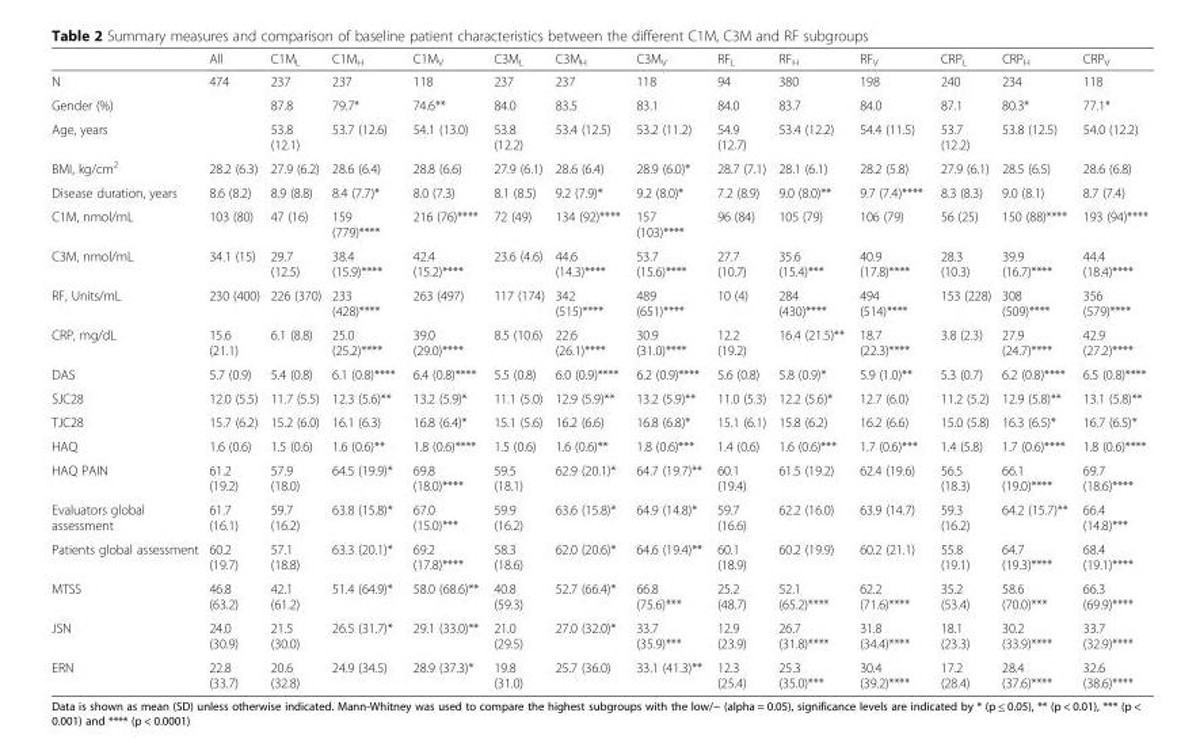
<table><thead><tr><td></td><td>All</td><td>C1M<sub>L</sub></td><td>C1M<sub>H</sub></td><td>C1M<sub>V</sub></td><td>C3M<sub>L</sub></td><td>C3M<sub>H</sub></td><td>C3M<sub>V</sub></td><td>RF<sub>L</sub></td><td>RF<sub>H</sub></td><td>RF<sub>V</sub></td><td>CRP<sub>L</sub></td><td>CRP<sub>H</sub></td><td>CRP<sub>V</sub></td></tr></thead><tbody><tr><td>N</td><td>474</td><td>237</td><td>237</td><td>118</td><td>237</td><td>237</td><td>118</td><td>94</td><td>380</td><td>198</td><td>240</td><td>234</td><td>118</td></tr><tr><td>Gender (%)</td><td></td><td>87.8</td><td>79.7*</td><td>74.6**</td><td>84.0</td><td>83.5</td><td>83.1</td><td>84.0</td><td>83.7</td><td>84.0</td><td>87.1</td><td>80.3*</td><td>77.1*</td></tr><tr><td>Age, years</td><td></td><td>53.8 (12.1)</td><td>53.7 (12.6)</td><td>54.1 (13.0)</td><td>53.8 (12.2)</td><td>53.4 (12.5)</td><td>53.2 (11.2)</td><td>54.9 (12.7)</td><td>53.4 (12.2)</td><td>54.4 (11.5)</td><td>53.7 (12.2)</td><td>53.8 (12.5)</td><td>54.0 (12.2)</td></tr><tr><td>BMI, kg/cm<sup>2</sup></td><td>28.2 (6.3)</td><td>27.9 (6.2)</td><td>28.6 (6.4)</td><td>28.8 (6.6)</td><td>27.9 (6.1)</td><td>28.6 (6.4)</td><td>28.9 (6.0)*</td><td>28.7 (7.1)</td><td>28.1 (6.1)</td><td>28.2 (5.8)</td><td>27.9 (6.1)</td><td>28.5 (6.5)</td><td>28.6 (6.8)</td></tr><tr><td>Disease duration, years</td><td>8.6 (8.2)</td><td>8.9 (8.8)</td><td>8.4 (7.7)*</td><td>8.0 (7.3)</td><td>8.1 (8.5)</td><td>9.2 (7.9)*</td><td>9.2 (8.0)*</td><td>7.2 (8.9)</td><td>9.0 (8.0)**</td><td>9.7 (7.4)****</td><td>8.3 (8.3)</td><td>9.0 (8.1)</td><td>8.7 (7.4)</td></tr><tr><td>C1M, nmol/mL</td><td>103 (80)</td><td>47 (16)</td><td>159 (779)****</td><td>216 (76)****</td><td>72 (49)</td><td>134 (92)****</td><td>157 (103)****</td><td>96 (84)</td><td>105 (79)</td><td>106 (79)</td><td>56 (25)</td><td>150 (88)****</td><td>193 (94)****</td></tr><tr><td>C3M, nmol/mL</td><td>34.1 (15)</td><td>29.7 (12.5)</td><td>38.4 (15.9)****</td><td>42.4 (15.2)****</td><td>23.6 (4.6)</td><td>44.6 (14.3)****</td><td>53.7 (15.6)****</td><td>27.7 (10.7)</td><td>35.6 (15.4)***</td><td>40.9 (17.8)****</td><td>28.3 (10.3)</td><td>39.9 (16.7)****</td><td>44.4 (18.4)****</td></tr><tr><td>RF, Units/mL</td><td>230 (400)</td><td>226 (370)</td><td>233 (428)****</td><td>263 (497)</td><td>117 (174)</td><td>342 (515)****</td><td>489 (651)****</td><td>10 (4)</td><td>284 (430)****</td><td>494 (514)****</td><td>153 (228)</td><td>308 (509)****</td><td>356 (579)****</td></tr><tr><td>CRP, mg/dL</td><td>15.6 (21.1)</td><td>6.1 (8.8)</td><td>25.0 (25.2)****</td><td>39.0 (29.0)****</td><td>8.5 (10.6)</td><td>22.6 (26.1)****</td><td>30.9 (31.0)****</td><td>12.2 (19.2)</td><td>16.4 (21.5)**</td><td>18.7 (22.3)****</td><td>3.8 (2.3)</td><td>27.9 (24.7)****</td><td>42.9 (27.2)****</td></tr><tr><td>DAS</td><td>5.7 (0.9)</td><td>5.4 (0.8)</td><td>6.1 (0.8)****</td><td>6.4 (0.8)****</td><td>5.5 (0.8)</td><td>6.0 (0.9)****</td><td>6.2 (0.9)****</td><td>5.6 (0.8)</td><td>5.8 (0.9)*</td><td>5.9 (1.0)**</td><td>5.3 (0.7)</td><td>6.2 (0.8)****</td><td>6.5 (0.8)****</td></tr><tr><td>SJC28</td><td>12.0 (5.5)</td><td>11.7 (5.5)</td><td>12.3 (5.6)**</td><td>13.2 (5.9)*</td><td>11.1 (5.0)</td><td>12.9 (5.9)**</td><td>13.2 (5.9)**</td><td>11.0 (5.3)</td><td>12.2 (5.6)*</td><td>12.7 (6.0)</td><td>11.2 (5.2)</td><td>12.9 (5.8)**</td><td>13.1 (5.8)**</td></tr><tr><td>TJC28</td><td>15.7 (6.2)</td><td>15.2 (6.0)</td><td>16.1 (6.3)</td><td>16.8 (6.4)*</td><td>15.1 (5.6)</td><td>16.2 (6.6)</td><td>16.8 (6.8)*</td><td>15.1 (6.1)</td><td>15.8 (6.2)</td><td>16.2 (6.6)</td><td>15.0 (5.8)</td><td>16.3 (6.5)*</td><td>16.7 (6.5)*</td></tr><tr><td>HAQ</td><td>1.6 (0.6)</td><td>1.5 (0.6)</td><td>1.6 (0.6)**</td><td>1.8 (0.6)****</td><td>1.5 (0.6)</td><td>1.6 (0.6)**</td><td>1.8 (0.6)***</td><td>1.4 (0.6)</td><td>1.6 (0.6)***</td><td>1.7 (0.6)***</td><td>1.4 (5.8)</td><td>1.7 (0.6)****</td><td>1.8 (0.6)****</td></tr><tr><td>HAQ PAIN</td><td>61.2 (19.2)</td><td>57.9 (18.0)</td><td>64.5 (19.9)*</td><td>69.8 (18.0)****</td><td>59.5 (18.1)</td><td>62.9 (20.1)*</td><td>64.7 (19.7)**</td><td>60.1 (19.4)</td><td>61.5 (19.2)</td><td>62.4 (19.6)</td><td>56.5 (18.3)</td><td>66.1 (19.0)****</td><td>69.7 (18.6)****</td></tr><tr><td>Evaluators global assessment</td><td>61.7 (16.1)</td><td>59.7 (16.2)</td><td>63.8 (15.8)*</td><td>67.0 (15.0)***</td><td>59.9 (16.2)</td><td>63.6 (15.8)*</td><td>64.9 (14.8)*</td><td>59.7 (16.6)</td><td>62.2 (16.0)</td><td>63.9 (14.7)</td><td>59.3 (16.2)</td><td>64.2 (15.7)**</td><td>66.4 (14.8)***</td></tr><tr><td>Patients global assessment</td><td>60.2 (19.7)</td><td>57.1 (18.8)</td><td>63.3 (20.1)*</td><td>69.2 (17.8)****</td><td>58.3 (18.6)</td><td>62.0 (20.6)*</td><td>64.6 (19.4)**</td><td>60.1 (18.9)</td><td>60.2 (19.9)</td><td>60.2 (21.1)</td><td>55.8 (19.1)</td><td>64.7 (19.3)****</td><td>68.4 (19.1)****</td></tr><tr><td>MTSS</td><td>46.8 (63.2)</td><td>42.1 (61.2)</td><td>51.4 (64.9)*</td><td>58.0 (68.6)**</td><td>40.8 (59.3)</td><td>52.7 (66.4)*</td><td>66.8 (75.6)***</td><td>25.2 (48.7)</td><td>52.1 (65.2)****</td><td>62.2 (71.6)****</td><td>35.2 (53.4)</td><td>58.6 (70.0)***</td><td>66.3 (69.9)****</td></tr><tr><td>JSN</td><td>24.0 (30.9)</td><td>21.5 (30.0)</td><td>26.5 (31.7)*</td><td>29.1 (33.0)**</td><td>21.0 (29.5)</td><td>27.0 (32.0)*</td><td>33.7 (35.9)***</td><td>12.9 (23.9)</td><td>26.7 (31.8)****</td><td>31.8 (34.4)****</td><td>18.1 (23.3)</td><td>30.2 (33.9)****</td><td>33.7 (32.9)****</td></tr><tr><td>ERN</td><td>22.8 (33.7)</td><td>20.6 (32.8)</td><td>24.9 (34.5)</td><td>28.9 (37.3)*</td><td>19.8 (31.0)</td><td>25.7 (36.0)</td><td>33.1 (41.3)**</td><td>12.3 (25.4)</td><td>25.3 (35.0)***</td><td>30.4 (39.2)****</td><td>17.2 (28.4)</td><td>28.4 (37.6)****</td><td>32.6 (38.6)****</td></tr></tbody></table>